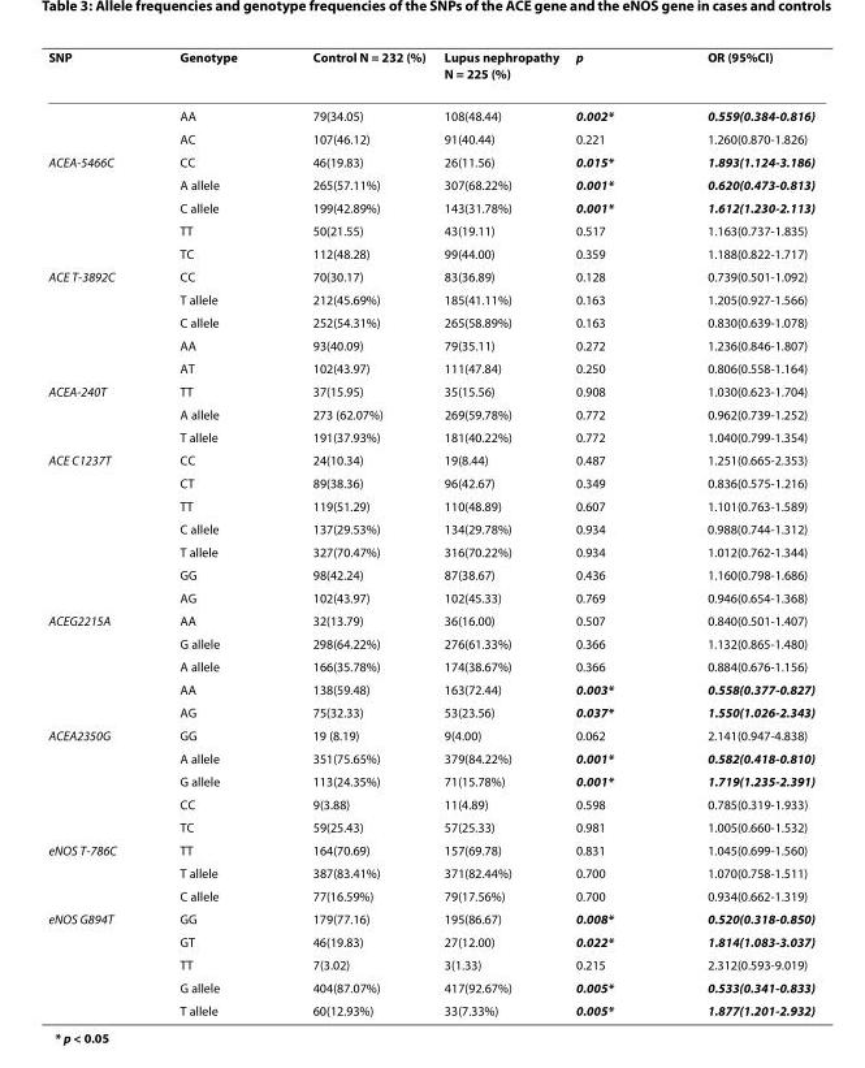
<table><thead><tr><td>SNP</td><td>Genotype</td><td>Control N = 232 (%)</td><td>Lupus nephropathy N = 225 (%)</td><td>p</td><td>OR (95%CI)</td></tr></thead><tbody><tr><td></td><td>AA</td><td>79(34.05)</td><td>108(48.44)</td><td>0.002*</td><td>0.559(0.384-0.816)</td></tr><tr><td></td><td>AC</td><td>107(46.12)</td><td>91(40.44)</td><td>0.221</td><td>1.260(0.870-1.826)</td></tr><tr><td rowspan="5">ACEA-5466C</td><td>CC</td><td>46(19.83)</td><td>26(11.56)</td><td>0.015*</td><td>1.893(1.124-3.186)</td></tr><tr><td>A allele</td><td>265(57.11%)</td><td>307(68.22%)</td><td>0.001*</td><td>0.620(0.473-0.813)</td></tr><tr><td>C allele</td><td>199(42.89%)</td><td>143(31.78%)</td><td>0.001*</td><td>1.612(1.230-2.113)</td></tr><tr><td>TT</td><td>50(21.55)</td><td>43(19.11)</td><td>0.517</td><td>1.163(0.737-1.835)</td></tr><tr><td>TC</td><td>112(48.28)</td><td>99(44.00)</td><td>0.359</td><td>1.188(0.822-1.717)</td></tr><tr><td rowspan="5">ACE T-3892C</td><td>CC</td><td>70(30.17)</td><td>83(36.89)</td><td>0.128</td><td>0.739(0.501-1.092)</td></tr><tr><td>T allele</td><td>212(45.69%)</td><td>185(41.11%)</td><td>0.163</td><td>1.205(0.927-1.566)</td></tr><tr><td>C allele</td><td>252(54.31%)</td><td>265(58.89%)</td><td>0.163</td><td>0.830(0.639-1.078)</td></tr><tr><td>AA</td><td>93(40.09)</td><td>79(35.11)</td><td>0.272</td><td>1.236(0.846-1.807)</td></tr><tr><td>AT</td><td>102(43.97)</td><td>111(47.84)</td><td>0.250</td><td>0.806(0.558-1.164)</td></tr><tr><td rowspan="3">ACEA-240T</td><td>TT</td><td>37(15.95)</td><td>35(15.56)</td><td>0.908</td><td>1.030(0.623-1.704)</td></tr><tr><td>A allele</td><td>273 (62.07%)</td><td>269(59.78%)</td><td>0.772</td><td>0.962(0.739-1.252)</td></tr><tr><td>T allele</td><td>191(37.93%)</td><td>181(40.22%)</td><td>0.772</td><td>1.040(0.799-1.354)</td></tr><tr><td rowspan="7">ACE C1237T</td><td>CC</td><td>24(10.34)</td><td>19(8.44)</td><td>0.487</td><td>1.251(0.665-2.353)</td></tr><tr><td>CT</td><td>89(38.36)</td><td>96(42.67)</td><td>0.349</td><td>0.836(0.575-1.216)</td></tr><tr><td>TT</td><td>119(51.29)</td><td>110(48.89)</td><td>0.607</td><td>1.101(0.763-1.589)</td></tr><tr><td>C allele</td><td>137(29.53%)</td><td>134(29.78%)</td><td>0.934</td><td>0.988(0.744-1.312)</td></tr><tr><td>T allele</td><td>327(70.47%)</td><td>316(70.22%)</td><td>0.934</td><td>1.012(0.762-1.344)</td></tr><tr><td>GG</td><td>98(42.24)</td><td>87(38.67)</td><td>0.436</td><td>1.160(0.798-1.686)</td></tr><tr><td>AG</td><td>102(43.97)</td><td>102(45.33)</td><td>0.769</td><td>0.946(0.654-1.368)</td></tr><tr><td rowspan="5">ACEG2215A</td><td>AA</td><td>32(13.79)</td><td>36(16.00)</td><td>0.507</td><td>0.840(0.501-1.407)</td></tr><tr><td>G allele</td><td>298(64.22%)</td><td>276(61.33%)</td><td>0.366</td><td>1.132(0.865-1.480)</td></tr><tr><td>A allele</td><td>166(35.78%)</td><td>174(38.67%)</td><td>0.366</td><td>0.884(0.676-1.156)</td></tr><tr><td>AA</td><td>138(59.48)</td><td>163(72.44)</td><td>0.003*</td><td>0.558(0.377-0.827)</td></tr><tr><td>AG</td><td>75(32.33)</td><td>53(23.56)</td><td>0.037*</td><td>1.550(1.026-2.343)</td></tr><tr><td rowspan="5">ACEA2350G</td><td>GG</td><td>19 (8.19)</td><td>9(4.00)</td><td>0.062</td><td>2.141(0.947-4.838)</td></tr><tr><td>A allele</td><td>351(75.65%)</td><td>379(84.22%)</td><td>0.001*</td><td>0.582(0.418-0.810)</td></tr><tr><td>G allele</td><td>113(24.35%)</td><td>71(15.78%)</td><td>0.001*</td><td>1.719(1.235-2.391)</td></tr><tr><td>CC</td><td>9(3.88)</td><td>11(4.89)</td><td>0.598</td><td>0.785(0.319-1.933)</td></tr><tr><td>TC</td><td>59(25.43)</td><td>57(25.33)</td><td>0.981</td><td>1.005(0.660-1.532)</td></tr><tr><td rowspan="3">eNOS T-786C</td><td>TT</td><td>164(70.69)</td><td>157(69.78)</td><td>0.831</td><td>1.045(0.699-1.560)</td></tr><tr><td>T allele</td><td>387(83.41%)</td><td>371(82.44%)</td><td>0.700</td><td>1.070(0.758-1.511)</td></tr><tr><td>C allele</td><td>77(16.59%)</td><td>79(17.56%)</td><td>0.700</td><td>0.934(0.662-1.319)</td></tr><tr><td rowspan="5">eNOS G894T</td><td>GG</td><td>179(77.16)</td><td>195(86.67)</td><td>0.008*</td><td>0.520(0.318-0.850)</td></tr><tr><td>GT</td><td>46(19.83)</td><td>27(12.00)</td><td>0.022*</td><td>1.814(1.083-3.037)</td></tr><tr><td>TT</td><td>7(3.02)</td><td>3(1.33)</td><td>0.215</td><td>2.312(0.593-9.019)</td></tr><tr><td>G allele</td><td>404(87.07%)</td><td>417(92.67%)</td><td>0.005*</td><td>0.533(0.341-0.833)</td></tr><tr><td>T allele</td><td>60(12.93%)</td><td>33(7.33%)</td><td>0.005*</td><td>1.877(1.201-2.932)</td></tr></tbody></table>